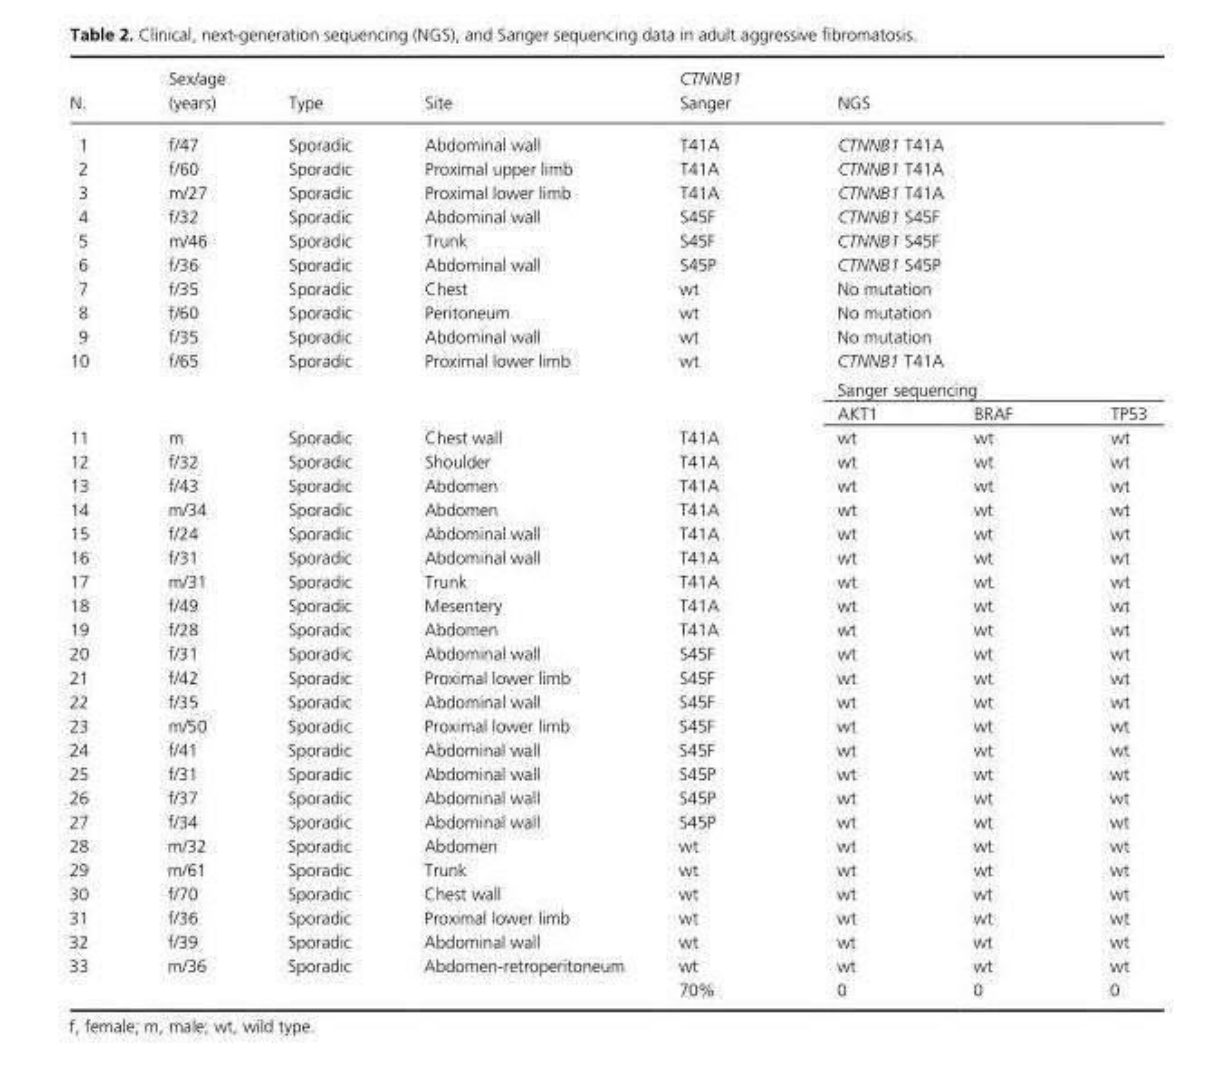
<table><thead><tr><td>N.</td><td>Sex/age (years)</td><td>Type</td><td>Site</td><td>CTNNB1 Sanger</td><td colspan="3">NGS</td></tr></thead><tbody><tr><td>1</td><td>f/47</td><td>Sporadic</td><td>Abdominal wall</td><td>T41A</td><td colspan="3">CTNNB1 T41A</td></tr><tr><td>2</td><td>f/60</td><td>Sporadic</td><td>Proximal upper limb</td><td>T41A</td><td colspan="3">CTNNB1 T41A</td></tr><tr><td>3</td><td>m/27</td><td>Sporadic</td><td>Proximal lower limb</td><td>T41A</td><td colspan="3">CTNNB1 T41A</td></tr><tr><td>4</td><td>f/32</td><td>Sporadic</td><td>Abdominal wall</td><td>S45F</td><td colspan="3">CTNNB1 S45F</td></tr><tr><td>5</td><td>m/46</td><td>Sporadic</td><td>Trunk</td><td>S45F</td><td colspan="3">CTNNB1 S45F</td></tr><tr><td>6</td><td>f/36</td><td>Sporadic</td><td>Abdominal wall</td><td>S45P</td><td colspan="3">CTNNB1 S45P</td></tr><tr><td>7</td><td>f/35</td><td>Sporadic</td><td>Chest</td><td>wt</td><td colspan="3">No mutation</td></tr><tr><td>8</td><td>f/60</td><td>Sporadic</td><td>Peritoneum</td><td>wt</td><td colspan="3">No mutation</td></tr><tr><td>9</td><td>f/35</td><td>Sporadic</td><td>Abdominal wall</td><td>wt</td><td colspan="3">No mutation</td></tr><tr><td>10</td><td>f/65</td><td>Sporadic</td><td>Proximal lower limb</td><td>wt</td><td colspan="3">CTNNB1 T41A</td></tr><tr><td rowspan="2" colspan="5"></td><td colspan="3">Sanger sequencing</td></tr><tr><td>AKT1</td><td>BRAF</td><td>TP53</td></tr><tr><td>11</td><td>m</td><td>Sporadic</td><td>Chest wall</td><td>T41A</td><td>wt</td><td>wt</td><td>wt</td></tr><tr><td>12</td><td>f/32</td><td>Sporadic</td><td>Shoulder</td><td>T41A</td><td>wt</td><td>wt</td><td>wt</td></tr><tr><td>13</td><td>f/43</td><td>Sporadic</td><td>Abdomen</td><td>T41A</td><td>wt</td><td>wt</td><td>wt</td></tr><tr><td>14</td><td>m/34</td><td>Sporadic</td><td>Abdomen</td><td>T41A</td><td>wt</td><td>wt</td><td>wt</td></tr><tr><td>15</td><td>f/24</td><td>Sporadic</td><td>Abdominal wall</td><td>T41A</td><td>wt</td><td>wt</td><td>wt</td></tr><tr><td>16</td><td>f/31</td><td>Sporadic</td><td>Abdominal wall</td><td>T41A</td><td>wt</td><td>wt</td><td>wt</td></tr><tr><td>17</td><td>m/31</td><td>Sporadic</td><td>Trunk</td><td>T41A</td><td>wt</td><td>wt</td><td>wt</td></tr><tr><td>18</td><td>f/49</td><td>Sporadic</td><td>Mesentery</td><td>T41A</td><td>wt</td><td>wt</td><td>wt</td></tr><tr><td>19</td><td>f/28</td><td>Sporadic</td><td>Abdomen</td><td>T41A</td><td>wt</td><td>wt</td><td>wt</td></tr><tr><td>20</td><td>f/31</td><td>Sporadic</td><td>Abdominal wall</td><td>S45F</td><td>wt</td><td>wt</td><td>wt</td></tr><tr><td>21</td><td>f/42</td><td>Sporadic</td><td>Proximal lower limb</td><td>S45F</td><td>wt</td><td>wt</td><td>wt</td></tr><tr><td>22</td><td>f/35</td><td>Sporadic</td><td>Abdominal wall</td><td>S45F</td><td>wt</td><td>wt</td><td>wt</td></tr><tr><td>23</td><td>m/50</td><td>Sporadic</td><td>Proximal lower limb</td><td>S45F</td><td>wt</td><td>wt</td><td>wt</td></tr><tr><td>24</td><td>f/41</td><td>Sporadic</td><td>Abdominal wall</td><td>S45F</td><td>wt</td><td>wt</td><td>wt</td></tr><tr><td>25</td><td>f/31</td><td>Sporadic</td><td>Abdominal wall</td><td>S45P</td><td>wt</td><td>wt</td><td>wt</td></tr><tr><td>26</td><td>f/37</td><td>Sporadic</td><td>Abdominal wall</td><td>S45P</td><td>wt</td><td>wt</td><td>wt</td></tr><tr><td>27</td><td>f/34</td><td>Sporadic</td><td>Abdominal wall</td><td>S45P</td><td>wt</td><td>wt</td><td>wt</td></tr><tr><td>28</td><td>m/32</td><td>Sporadic</td><td>Abdomen</td><td>wt</td><td>wt</td><td>wt</td><td>wt</td></tr><tr><td>29</td><td>m/61</td><td>Sporadic</td><td>Trunk</td><td>wt</td><td>wt</td><td>wt</td><td>wt</td></tr><tr><td>30</td><td>f/70</td><td>Sporadic</td><td>Chest wall</td><td>wt</td><td>wt</td><td>wt</td><td>wt</td></tr><tr><td>31</td><td>f/36</td><td>Sporadic</td><td>Proximal lower limb</td><td>wt</td><td>wt</td><td>wt</td><td>wt</td></tr><tr><td>32</td><td>f/39</td><td>Sporadic</td><td>Abdominal wall</td><td>wt</td><td>wt</td><td>wt</td><td>wt</td></tr><tr><td rowspan="2">33</td><td>m/36</td><td>Sporadic</td><td>Abdomen- retroperitoneum</td><td>wt</td><td>wt</td><td>wt</td><td>wt</td></tr><tr><td></td><td></td><td></td><td>70%</td><td>0</td><td>0</td><td>0</td></tr></tbody></table>